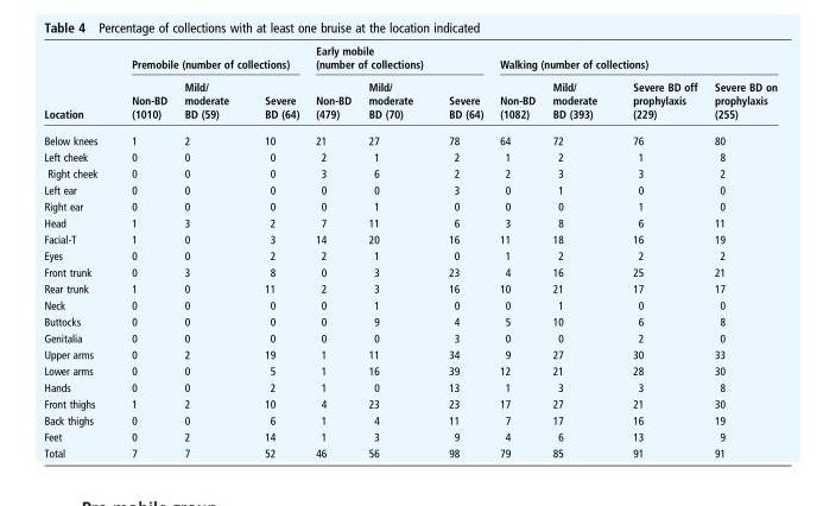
<table><thead><tr><td rowspan="2">Location</td><td colspan="3">Premobile (number of collections)</td><td colspan="3">Early mobile (number of collections)</td><td colspan="4">Walking (number of collections)</td></tr><tr><td>Non-BD (1010)</td><td>Mild/ moderate BD (59)</td><td>Severe BD (64)</td><td>Non-BD (479)</td><td>Mild/ moderate BD (70)</td><td>Severe BD (64)</td><td>Non-BD (1082)</td><td>Mild/ moderate BD (393)</td><td>Severe BD off prophylaxis (229)</td><td>Severe BD on prophylaxis (255)</td></tr></thead><tbody><tr><td>Below knees</td><td>1</td><td>2</td><td>10</td><td>21</td><td>27</td><td>78</td><td>64</td><td>72</td><td>76</td><td>80</td></tr><tr><td>Left cheek</td><td>0</td><td>0</td><td>0</td><td>2</td><td>1</td><td>2</td><td>1</td><td>2</td><td>1</td><td>8</td></tr><tr><td>Right cheek</td><td>0</td><td>0</td><td>0</td><td>3</td><td>6</td><td>2</td><td>2</td><td>3</td><td>3</td><td>2</td></tr><tr><td>Left ear</td><td>0</td><td>0</td><td>0</td><td>0</td><td>0</td><td>3</td><td>0</td><td>1</td><td>0</td><td>0</td></tr><tr><td>Right ear</td><td>0</td><td>0</td><td>0</td><td>0</td><td>1</td><td>0</td><td>0</td><td>0</td><td>1</td><td>0</td></tr><tr><td>Head</td><td>1</td><td>3</td><td>2</td><td>7</td><td>11</td><td>6</td><td>3</td><td>8</td><td>6</td><td>11</td></tr><tr><td>Facial-T</td><td>1</td><td>0</td><td>3</td><td>14</td><td>20</td><td>16</td><td>11</td><td>18</td><td>16</td><td>19</td></tr><tr><td>Eyes</td><td>0</td><td>0</td><td>2</td><td>2</td><td>1</td><td>0</td><td>1</td><td>2</td><td>2</td><td>2</td></tr><tr><td>Front trunk</td><td>0</td><td>3</td><td>8</td><td>0</td><td>3</td><td>23</td><td>4</td><td>16</td><td>25</td><td>21</td></tr><tr><td>Rear trunk</td><td>1</td><td>0</td><td>11</td><td>2</td><td>3</td><td>16</td><td>10</td><td>21</td><td>17</td><td>17</td></tr><tr><td>Neck</td><td>0</td><td>0</td><td>0</td><td>0</td><td>1</td><td>0</td><td>0</td><td>1</td><td>0</td><td>0</td></tr><tr><td>Buttocks</td><td>0</td><td>0</td><td>0</td><td>0</td><td>9</td><td>4</td><td>5</td><td>10</td><td>6</td><td>8</td></tr><tr><td>Genitalia</td><td>0</td><td>0</td><td>0</td><td>0</td><td>0</td><td>3</td><td>0</td><td>0</td><td>2</td><td>0</td></tr><tr><td>Upper arms</td><td>0</td><td>2</td><td>19</td><td>1</td><td>11</td><td>34</td><td>9</td><td>27</td><td>30</td><td>33</td></tr><tr><td>Lower arms</td><td>0</td><td>0</td><td>5</td><td>1</td><td>16</td><td>39</td><td>12</td><td>21</td><td>28</td><td>30</td></tr><tr><td>Hands</td><td>0</td><td>0</td><td>2</td><td>1</td><td>0</td><td>13</td><td>1</td><td>3</td><td>3</td><td>8</td></tr><tr><td>Front thighs</td><td>1</td><td>2</td><td>10</td><td>4</td><td>23</td><td>23</td><td>17</td><td>27</td><td>21</td><td>30</td></tr><tr><td>Back thighs</td><td>0</td><td>0</td><td>6</td><td>1</td><td>4</td><td>11</td><td>7</td><td>17</td><td>16</td><td>19</td></tr><tr><td>Feet</td><td>0</td><td>2</td><td>14</td><td>1</td><td>3</td><td>9</td><td>4</td><td>6</td><td>13</td><td>9</td></tr><tr><td>Total</td><td>7</td><td>7</td><td>52</td><td>46</td><td>56</td><td>98</td><td>79</td><td>85</td><td>91</td><td>91</td></tr></tbody></table>